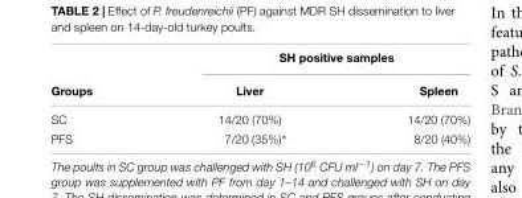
<table><thead><tr><td rowspan="2">Groups</td><td colspan="2">SH positive samples</td></tr><tr><td>Liver</td><td>Spleen</td></tr></thead><tbody><tr><td>SC</td><td>14/20 (70%)</td><td>14/20 (70%)</td></tr><tr><td>PFS</td><td>7/20 (35%)∗</td><td>8/20 (40%)</td></tr></tbody></table>